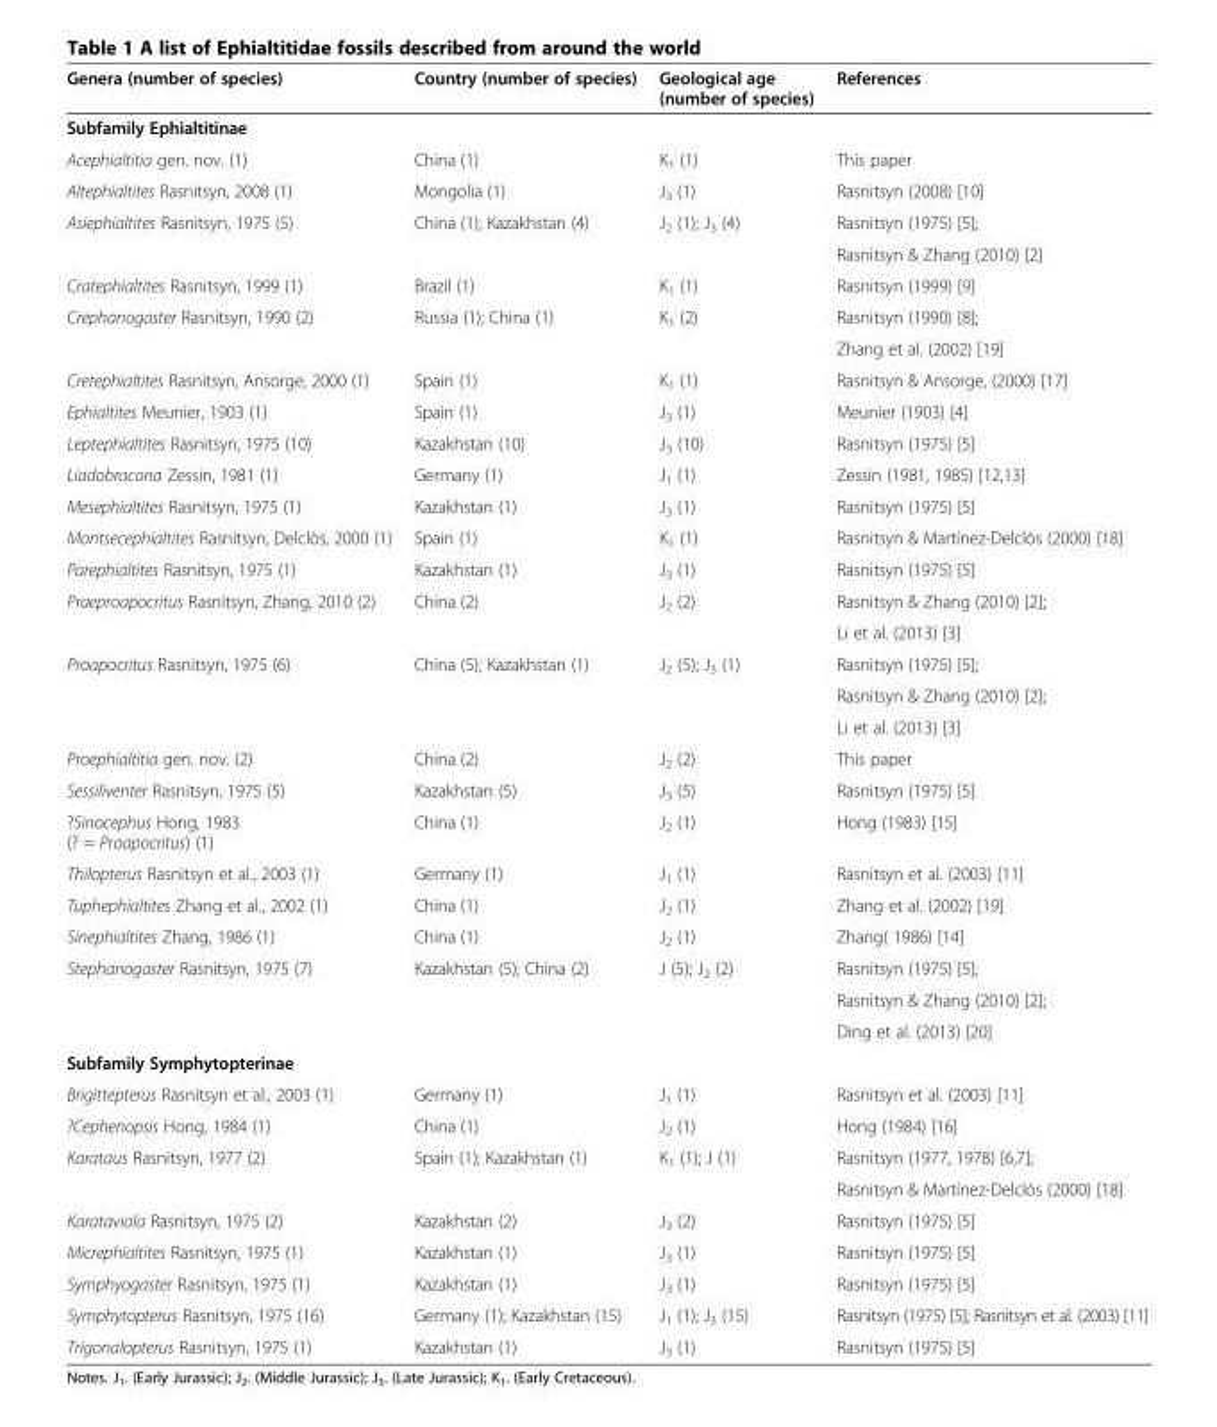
<table><thead><tr><td>Genera (number of species)</td><td>Country (number of species)</td><td>Geological age (number of species)</td><td>References</td></tr></thead><tbody><tr><td colspan="4">Subfamily Ephialtitinae</td></tr><tr><td>Acephialtitia gen. nov. (1)</td><td>China (1)</td><td>K<sub>1</sub> (1)</td><td>This paper</td></tr><tr><td>Altephialtites Rasnitsyn, 2008 (1)</td><td>Mongolia (1)</td><td>J<sub>3</sub> (1)</td><td>Rasnitsyn (2008) [10]</td></tr><tr><td rowspan="2">Asiephialtites Rasnitsyn, 1975 (5)</td><td>China (1); Kazakhstan (4)</td><td>J<sub>2</sub> (1); J<sub>3</sub> (4)</td><td>Rasnitsyn (1975) [5];</td></tr><tr><td></td><td></td><td>Rasnitsyn &amp; Zhang (2010) [2]</td></tr><tr><td>Cratephialtites Rasnitsyn, 1999 (1)</td><td>Brazil (1)</td><td>K<sub>1</sub> (1)</td><td>Rasnitsyn (1999) [9]</td></tr><tr><td rowspan="2">Crephanogaster Rasnitsyn, 1990 (2)</td><td>Russia (1); China (1)</td><td>K<sub>1</sub> (2)</td><td>Rasnitsyn (1990) [8];</td></tr><tr><td></td><td></td><td>Zhang et al. (2002) [19]</td></tr><tr><td>Cretephialtites Rasnitsyn, Ansorge, 2000 (1)</td><td>Spain (1)</td><td>K<sub>1</sub> (1)</td><td>Rasnitsyn &amp; Ansorge, (2000) [17]</td></tr><tr><td>Ephialtites Meunier, 1903 (1)</td><td>Spain (1)</td><td>J<sub>3</sub> (1)</td><td>Meunier (1903) [4]</td></tr><tr><td>Leptephialtites Rasnitsyn, 1975 (10)</td><td>Kazakhstan (10)</td><td>J<sub>3</sub> (10)</td><td>Rasnitsyn (1975) [5]</td></tr><tr><td>Liadobracona Zessin, 1981 (1)</td><td>Germany (1)</td><td>J<sub>1</sub> (1)</td><td>Zessin (1981, 1985) [12,13]</td></tr><tr><td>Mesephialtites Rasnitsyn, 1975 (1)</td><td>Kazakhstan (1)</td><td>J<sub>3</sub> (1)</td><td>Rasnitsyn (1975) [5]</td></tr><tr><td>Montsecephialtites Rasnitsyn, Delclòs, 2000 (1)</td><td>Spain (1)</td><td>K<sub>1</sub> (1)</td><td>Rasnitsyn &amp; Martínez-Delclòs (2000) [18]</td></tr><tr><td>Parephialtites Rasnitsyn, 1975 (1)</td><td>Kazakhstan (1)</td><td>J<sub>3</sub> (1)</td><td>Rasnitsyn (1975) [5]</td></tr><tr><td rowspan="2">Praeproapocritus Rasnitsyn, Zhang, 2010 (2)</td><td>China (2)</td><td>J<sub>2</sub> (2)</td><td>Rasnitsyn &amp; Zhang (2010) [2];</td></tr><tr><td></td><td></td><td>Li et al. (2013) [3]</td></tr><tr><td rowspan="3">Proapocritus Rasnitsyn, 1975 (6)</td><td>China (5); Kazakhstan (1)</td><td>J<sub>2</sub> (5); J<sub>3</sub> (1)</td><td>Rasnitsyn (1975) [5];</td></tr><tr><td></td><td></td><td>Rasnitsyn &amp; Zhang (2010) [2];</td></tr><tr><td></td><td></td><td>Li et al. (2013) [3]</td></tr><tr><td>Proephialtitia gen. nov. (2)</td><td>China (2)</td><td>J<sub>2</sub> (2)</td><td>This paper</td></tr><tr><td>Sessiliventer Rasnitsyn, 1975 (5)</td><td>Kazakhstan (5)</td><td>J<sub>3</sub> (5)</td><td>Rasnitsyn (1975) [5]</td></tr><tr><td>?Sinocephus Hong, 1983 (? = Proapocritus) (1)</td><td>China (1)</td><td>J<sub>2</sub> (1)</td><td>Hong (1983) [15]</td></tr><tr><td>Thilopterus Rasnitsyn et al., 2003 (1)</td><td>Germany (1)</td><td>J<sub>1</sub> (1)</td><td>Rasnitsyn et al. (2003) [11]</td></tr><tr><td>Tuphephialtites Zhang et al., 2002 (1)</td><td>China (1)</td><td>J<sub>2</sub> (1)</td><td>Zhang et al. (2002) [19]</td></tr><tr><td>Sinephialtites Zhang, 1986 (1)</td><td>China (1)</td><td>J<sub>2</sub> (1)</td><td>Zhang( 1986) [14]</td></tr><tr><td rowspan="3">Stephanogaster Rasnitsyn, 1975 (7)</td><td>Kazakhstan (5); China (2)</td><td>J (5); J<sub>2</sub> (2)</td><td>Rasnitsyn (1975) [5];</td></tr><tr><td></td><td></td><td>Rasnitsyn &amp; Zhang (2010) [2];</td></tr><tr><td></td><td></td><td>Ding et al. (2013) [20]</td></tr><tr><td colspan="4">Subfamily Symphytopterinae</td></tr><tr><td>Brigittepterus Rasnitsyn et al., 2003 (1)</td><td>Germany (1)</td><td>J<sub>1</sub> (1)</td><td>Rasnitsyn et al. (2003) [11]</td></tr><tr><td>?Cephenopsis Hong, 1984 (1)</td><td>China (1)</td><td>J<sub>2</sub> (1)</td><td>Hong (1984) [16]</td></tr><tr><td rowspan="2">Karataus Rasnitsyn, 1977 (2)</td><td>Spain (1); Kazakhstan (1)</td><td>K<sub>1</sub> (1); J (1)</td><td>Rasnitsyn (1977, 1978) [6,7];</td></tr><tr><td></td><td></td><td>Rasnitsyn &amp; Martínez-Delclòs (2000) [18]</td></tr><tr><td>Karataviola Rasnitsyn, 1975 (2)</td><td>Kazakhstan (2)</td><td>J<sub>3</sub> (2)</td><td>Rasnitsyn (1975) [5]</td></tr><tr><td>Micrephialtites Rasnitsyn, 1975 (1)</td><td>Kazakhstan (1)</td><td>J<sub>3</sub> (1)</td><td>Rasnitsyn (1975) [5]</td></tr><tr><td>Symphyogaster Rasnitsyn, 1975 (1)</td><td>Kazakhstan (1)</td><td>J<sub>3</sub> (1)</td><td>Rasnitsyn (1975) [5]</td></tr><tr><td>Symphytopterus Rasnitsyn, 1975 (16)</td><td>Germany (1); Kazakhstan (15)</td><td>J<sub>1</sub> (1); J<sub>3</sub> (15)</td><td>Rasnitsyn (1975) [5]; Rasnitsyn et al. (2003) [11]</td></tr><tr><td>Trigonalopterus Rasnitsyn, 1975 (1)</td><td>Kazakhstan (1)</td><td>J<sub>3</sub> (1)</td><td>Rasnitsyn (1975) [5]</td></tr></tbody></table>